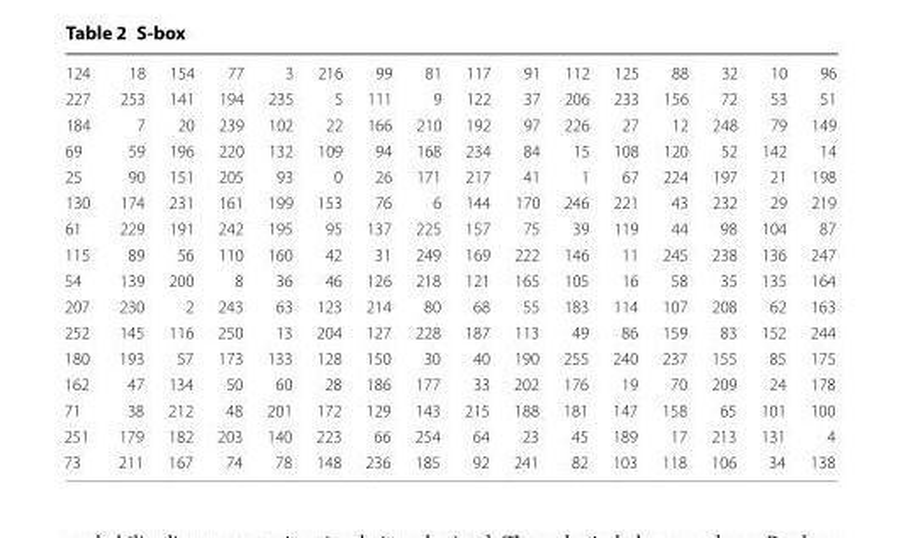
<table><tbody><tr><td>124</td><td>18</td><td>154</td><td>77</td><td>3</td><td>216</td><td>99</td><td>81</td><td>117</td><td>91</td><td>112</td><td>125</td><td>88</td><td>32</td><td>10</td><td>96</td></tr><tr><td>227</td><td>253</td><td>141</td><td>194</td><td>235</td><td>5</td><td>111</td><td>9</td><td>122</td><td>37</td><td>206</td><td>233</td><td>156</td><td>72</td><td>53</td><td>51</td></tr><tr><td>184</td><td>7</td><td>20</td><td>239</td><td>102</td><td>22</td><td>166</td><td>210</td><td>192</td><td>97</td><td>226</td><td>27</td><td>12</td><td>248</td><td>79</td><td>149</td></tr><tr><td>69</td><td>59</td><td>196</td><td>220</td><td>132</td><td>109</td><td>94</td><td>168</td><td>234</td><td>84</td><td>15</td><td>108</td><td>120</td><td>52</td><td>142</td><td>14</td></tr><tr><td>25</td><td>90</td><td>151</td><td>205</td><td>93</td><td>0</td><td>26</td><td>171</td><td>217</td><td>41</td><td>1</td><td>67</td><td>224</td><td>197</td><td>21</td><td>198</td></tr><tr><td>130</td><td>174</td><td>231</td><td>161</td><td>199</td><td>153</td><td>76</td><td>6</td><td>144</td><td>170</td><td>246</td><td>221</td><td>43</td><td>232</td><td>29</td><td>219</td></tr><tr><td>61</td><td>229</td><td>191</td><td>242</td><td>195</td><td>95</td><td>137</td><td>225</td><td>157</td><td>75</td><td>39</td><td>119</td><td>44</td><td>98</td><td>104</td><td>87</td></tr><tr><td>115</td><td>89</td><td>56</td><td>110</td><td>160</td><td>42</td><td>31</td><td>249</td><td>169</td><td>222</td><td>146</td><td>11</td><td>245</td><td>238</td><td>136</td><td>247</td></tr><tr><td>54</td><td>139</td><td>200</td><td>8</td><td>36</td><td>46</td><td>126</td><td>218</td><td>121</td><td>165</td><td>105</td><td>16</td><td>58</td><td>35</td><td>135</td><td>164</td></tr><tr><td>207</td><td>230</td><td>2</td><td>243</td><td>63</td><td>123</td><td>214</td><td>80</td><td>68</td><td>55</td><td>183</td><td>114</td><td>107</td><td>208</td><td>62</td><td>163</td></tr><tr><td>252</td><td>145</td><td>116</td><td>250</td><td>13</td><td>204</td><td>127</td><td>228</td><td>187</td><td>113</td><td>49</td><td>86</td><td>159</td><td>83</td><td>152</td><td>244</td></tr><tr><td>180</td><td>193</td><td>57</td><td>173</td><td>133</td><td>128</td><td>150</td><td>30</td><td>40</td><td>190</td><td>255</td><td>240</td><td>237</td><td>155</td><td>85</td><td>175</td></tr><tr><td>162</td><td>47</td><td>134</td><td>50</td><td>60</td><td>28</td><td>186</td><td>177</td><td>33</td><td>202</td><td>176</td><td>19</td><td>70</td><td>209</td><td>24</td><td>178</td></tr><tr><td>71</td><td>38</td><td>212</td><td>48</td><td>201</td><td>172</td><td>129</td><td>143</td><td>215</td><td>188</td><td>181</td><td>147</td><td>158</td><td>65</td><td>101</td><td>100</td></tr><tr><td>251</td><td>179</td><td>182</td><td>203</td><td>140</td><td>223</td><td>66</td><td>254</td><td>64</td><td>23</td><td>45</td><td>189</td><td>17</td><td>213</td><td>131</td><td>4</td></tr><tr><td>73</td><td>211</td><td>167</td><td>74</td><td>78</td><td>148</td><td>236</td><td>185</td><td>92</td><td>241</td><td>82</td><td>103</td><td>118</td><td>106</td><td>34</td><td>138</td></tr></tbody></table>